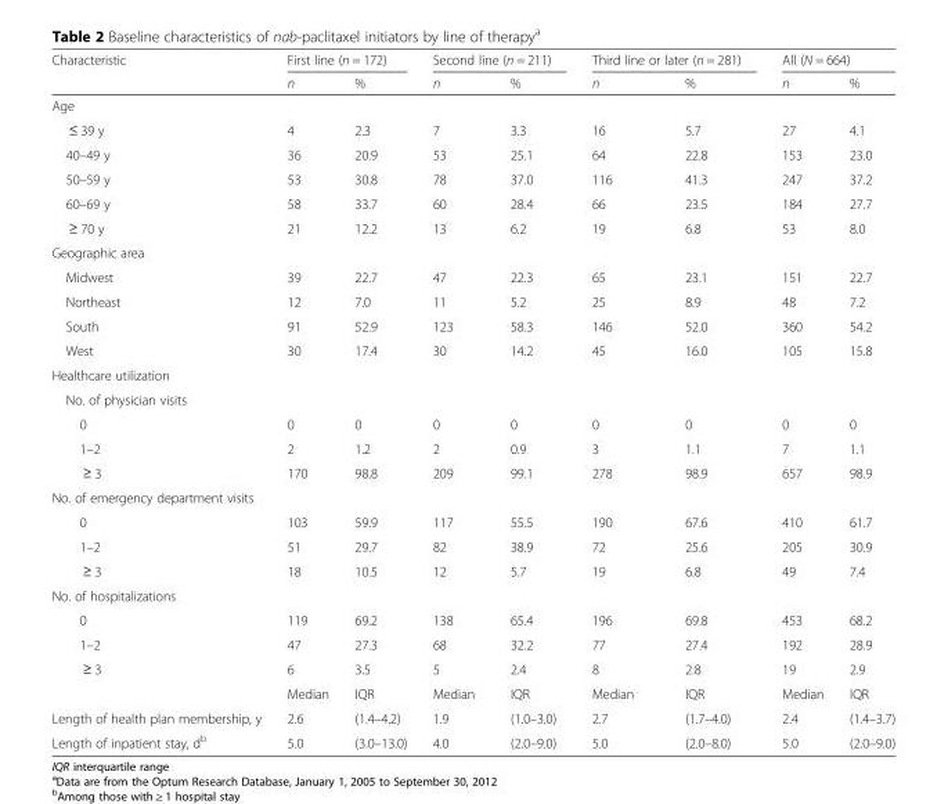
<table><thead><tr><td rowspan="2">Characteristic</td><td colspan="2">First line (n = 172)</td><td colspan="2">Second line (n = 211)</td><td colspan="2">Third line or later (n = 281)</td><td colspan="2">All (N = 664)</td></tr><tr><td>n</td><td>%</td><td>n</td><td>%</td><td>n</td><td>%</td><td>n</td><td>%</td></tr></thead><tbody><tr><td colspan="9">Age</td></tr><tr><td>≤ 39 y</td><td>4</td><td>2.3</td><td>7</td><td>3.3</td><td>16</td><td>5.7</td><td>27</td><td>4.1</td></tr><tr><td>40–49 y</td><td>36</td><td>20.9</td><td>53</td><td>25.1</td><td>64</td><td>22.8</td><td>153</td><td>23.0</td></tr><tr><td>50–59 y</td><td>53</td><td>30.8</td><td>78</td><td>37.0</td><td>116</td><td>41.3</td><td>247</td><td>37.2</td></tr><tr><td>60–69 y</td><td>58</td><td>33.7</td><td>60</td><td>28.4</td><td>66</td><td>23.5</td><td>184</td><td>27.7</td></tr><tr><td>≥ 70 y</td><td>21</td><td>12.2</td><td>13</td><td>6.2</td><td>19</td><td>6.8</td><td>53</td><td>8.0</td></tr><tr><td colspan="9">Geographic area</td></tr><tr><td>Midwest</td><td>39</td><td>22.7</td><td>47</td><td>22.3</td><td>65</td><td>23.1</td><td>151</td><td>22.7</td></tr><tr><td>Northeast</td><td>12</td><td>7.0</td><td>11</td><td>5.2</td><td>25</td><td>8.9</td><td>48</td><td>7.2</td></tr><tr><td>South</td><td>91</td><td>52.9</td><td>123</td><td>58.3</td><td>146</td><td>52.0</td><td>360</td><td>54.2</td></tr><tr><td>West</td><td>30</td><td>17.4</td><td>30</td><td>14.2</td><td>45</td><td>16.0</td><td>105</td><td>15.8</td></tr><tr><td colspan="9">Healthcare utilization</td></tr><tr><td colspan="9">No. of physician visits</td></tr><tr><td>0</td><td>0</td><td>0</td><td>0</td><td>0</td><td>0</td><td>0</td><td>0</td><td>0</td></tr><tr><td>1–2</td><td>2</td><td>1.2</td><td>2</td><td>0.9</td><td>3</td><td>1.1</td><td>7</td><td>1.1</td></tr><tr><td>≥ 3</td><td>170</td><td>98.8</td><td>209</td><td>99.1</td><td>278</td><td>98.9</td><td>657</td><td>98.9</td></tr><tr><td colspan="9">No. of emergency department visits</td></tr><tr><td>0</td><td>103</td><td>59.9</td><td>117</td><td>55.5</td><td>190</td><td>67.6</td><td>410</td><td>61.7</td></tr><tr><td>1–2</td><td>51</td><td>29.7</td><td>82</td><td>38.9</td><td>72</td><td>25.6</td><td>205</td><td>30.9</td></tr><tr><td>≥ 3</td><td>18</td><td>10.5</td><td>12</td><td>5.7</td><td>19</td><td>6.8</td><td>49</td><td>7.4</td></tr><tr><td colspan="9">No. of hospitalizations</td></tr><tr><td>0</td><td>119</td><td>69.2</td><td>138</td><td>65.4</td><td>196</td><td>69.8</td><td>453</td><td>68.2</td></tr><tr><td>1–2</td><td>47</td><td>27.3</td><td>68</td><td>32.2</td><td>77</td><td>27.4</td><td>192</td><td>28.9</td></tr><tr><td rowspan="2">≥ 3</td><td>6</td><td>3.5</td><td>5</td><td>2.4</td><td>8</td><td>2.8</td><td>19</td><td>2.9</td></tr><tr><td>Median</td><td>IQR</td><td>Median</td><td>IQR</td><td>Median</td><td>IQR</td><td>Median</td><td>IQR</td></tr><tr><td>Length of health plan membership, y</td><td>2.6</td><td>(1.4–4.2)</td><td>1.9</td><td>(1.0–3.0)</td><td>2.7</td><td>(1.7–4.0)</td><td>2.4</td><td>(1.4–3.7)</td></tr><tr><td>Length of inpatient stay, d<sup>b</sup></td><td>5.0</td><td>(3.0–13.0)</td><td>4.0</td><td>(2.0–9.0)</td><td>5.0</td><td>(2.0–8.0)</td><td>5.0</td><td>(2.0–9.0)</td></tr></tbody></table>